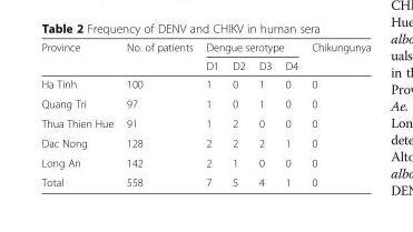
<table><thead><tr><td rowspan="2">Province</td><td rowspan="2">No. of patients</td><td colspan="4">Dengue serotype</td><td rowspan="2">Chikungunya</td></tr><tr><td>D1</td><td>D2</td><td>D3</td><td>D4</td></tr></thead><tbody><tr><td>Ha Tinh</td><td>100</td><td>1</td><td>0</td><td>1</td><td>0</td><td>0</td></tr><tr><td>Quang Tri</td><td>97</td><td>1</td><td>0</td><td>1</td><td>0</td><td>0</td></tr><tr><td>Thua Thien Hue</td><td>91</td><td>1</td><td>2</td><td>0</td><td>0</td><td>0</td></tr><tr><td>Dac Nong</td><td>128</td><td>2</td><td>2</td><td>2</td><td>1</td><td>0</td></tr><tr><td>Long An</td><td>142</td><td>2</td><td>1</td><td>0</td><td>0</td><td>0</td></tr><tr><td>Total</td><td>558</td><td>7</td><td>5</td><td>4</td><td>1</td><td>0</td></tr></tbody></table>